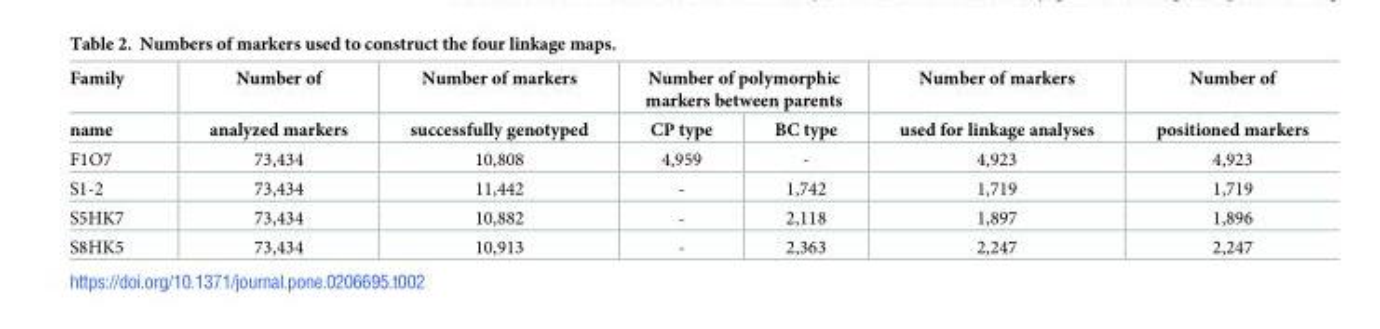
<table><thead><tr><td rowspan="2">Family name</td><td rowspan="2">Number of analyzed markers</td><td rowspan="2">Number of markers successfully genotyped</td><td colspan="2">Number of polymorphic markers between parents</td><td rowspan="2">Number of markers used for linkage analyses</td><td rowspan="2">Number of positioned markers</td></tr><tr><td>CP type</td><td>BC type</td></tr></thead><tbody><tr><td>F1O7</td><td>73,434</td><td>10,808</td><td>4,959</td><td>-</td><td>4,923</td><td>4,923</td></tr><tr><td>S1-2</td><td>73,434</td><td>11,442</td><td>-</td><td>1,742</td><td>1,719</td><td>1,719</td></tr><tr><td>S5HK7</td><td>73,434</td><td>10,882</td><td>-</td><td>2,118</td><td>1,897</td><td>1,896</td></tr><tr><td>S8HK5</td><td>73,434</td><td>10,913</td><td>-</td><td>2,363</td><td>2,247</td><td>2,247</td></tr></tbody></table>